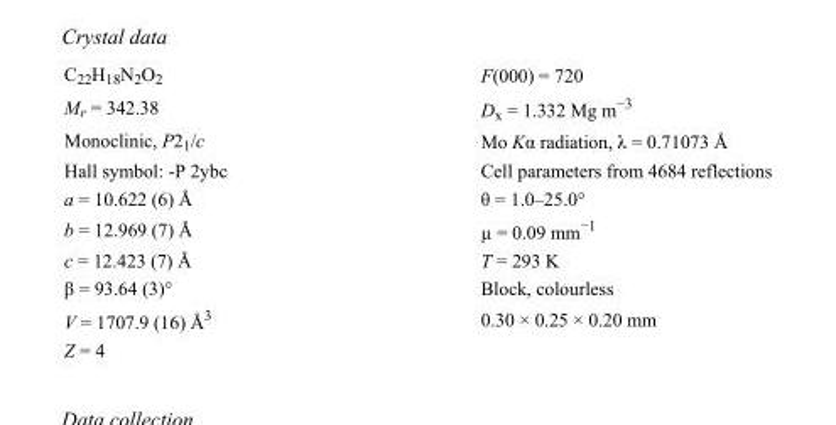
<table><tbody><tr><td>C<sub>22</sub>H<sub>18</sub>N<sub>2</sub>O<sub>2</sub></td><td>F(000) = 720</td></tr><tr><td>M<sub>r</sub> = 342.38</td><td>D<sub>x</sub> = 1.332 Mg m<sup>−3</sup></td></tr><tr><td>Monoclinic, P2<sub>1</sub>/c</td><td>Mo Kα radiation, λ = 0.71073 Å</td></tr><tr><td>Hall symbol: -P 2ybc</td><td>Cell parameters from 4684 reflections</td></tr><tr><td>a = 10.622 (6) Å</td><td>θ = 1.0–25.0°</td></tr><tr><td>b = 12.969 (7) Å</td><td>µ = 0.09 mm<sup>−1</sup></td></tr><tr><td>c = 12.423 (7) Å</td><td>T = 293 K</td></tr><tr><td>β = 93.64 (3)°</td><td>Block, colourless</td></tr><tr><td>V = 1707.9 (16) Å<sup>3</sup></td><td>0.30 × 0.25 × 0.20 mm</td></tr><tr><td>Z = 4</td><td></td></tr></tbody></table>